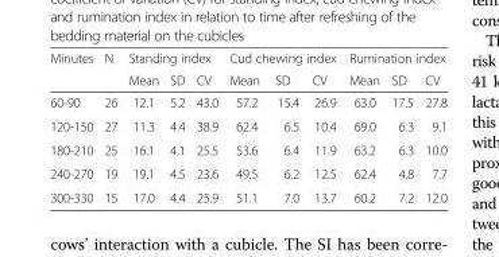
<table><thead><tr><td rowspan="2">Minutes</td><td rowspan="2">N</td><td colspan="3">Standing index</td><td colspan="3">Cud chewing index</td><td colspan="3">Rumination index</td></tr><tr><td>Mean</td><td>SD</td><td>CV</td><td>Mean</td><td>SD</td><td>CV</td><td>Mean</td><td>SD</td><td>CV</td></tr></thead><tbody><tr><td>60-90</td><td>26</td><td>12.1</td><td>5.2</td><td>43.0</td><td>57.2</td><td>15.4</td><td>26.9</td><td>63.0</td><td>17.5</td><td>27.8</td></tr><tr><td>120-150</td><td>27</td><td>11.3</td><td>4.4</td><td>38.9</td><td>62.4</td><td>6.5</td><td>10.4</td><td>69.0</td><td>6.3</td><td>9.1</td></tr><tr><td>180-210</td><td>25</td><td>16.1</td><td>4.1</td><td>25.5</td><td>53.6</td><td>6.4</td><td>11.9</td><td>63.2</td><td>6.3</td><td>10.0</td></tr><tr><td>240-270</td><td>19</td><td>19.1</td><td>4.5</td><td>23.6</td><td>49.5</td><td>6.2</td><td>12.5</td><td>62.4</td><td>4.8</td><td>7.7</td></tr><tr><td>300-330</td><td>15</td><td>17.0</td><td>4.4</td><td>25.9</td><td>51.1</td><td>7.0</td><td>13.7</td><td>60.2</td><td>7.2</td><td>12.0</td></tr></tbody></table>